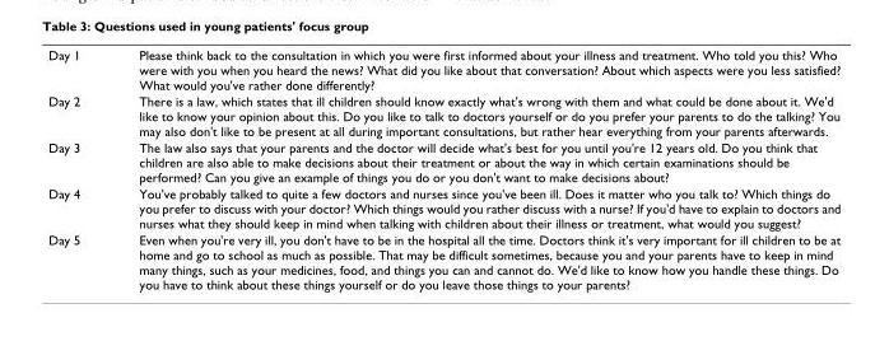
<table><tbody><tr><td>Day 1</td><td>Please think back to the consultation in which you were first informed about your illness and treatment. Who told you this? Who were with you when you heard the news? What did you like about that conversation? About which aspects were you less satisfied? What would you&#x27;ve rather done differently?</td></tr><tr><td>Day 2</td><td>There is a law, which states that ill children should know exactly what&#x27;s wrong with them and what could be done about it. We&#x27;d like to know your opinion about this. Do you like to talk to doctors yourself or do you prefer your parents to do the talking? You may also don&#x27;t like to be present at all during important consultations, but rather hear everything from your parents afterwards.</td></tr><tr><td>Day 3</td><td>The law also says that your parents and the doctor will decide what&#x27;s best for you until you&#x27;re 12 years old. Do you think that children are also able to make decisions about their treatment or about the way in which certain examinations should be performed? Can you give an example of things you do or you don&#x27;t want to make decisions about?</td></tr><tr><td>Day 4</td><td>You&#x27;ve probably talked to quite a few doctors and nurses since you&#x27;ve been ill. Does it matter who you talk to? Which things do you prefer to discuss with your doctor? Which things would you rather discuss with a nurse? If you&#x27;d have to explain to doctors and nurses what they should keep in mind when talking with children about their illness or treatment, what would you suggest?</td></tr><tr><td>Day 5</td><td>Even when you&#x27;re very ill, you don&#x27;t have to be in the hospital all the time. Doctors think it&#x27;s very important for ill children to be at home and go to school as much as possible. That may be difficult sometimes, because you and your parents have to keep in mind many things, such as your medicines, food, and things you can and cannot do. We&#x27;d like to know how you handle these things. Do you have to think about these things yourself or do you leave those things to your parents?</td></tr></tbody></table>